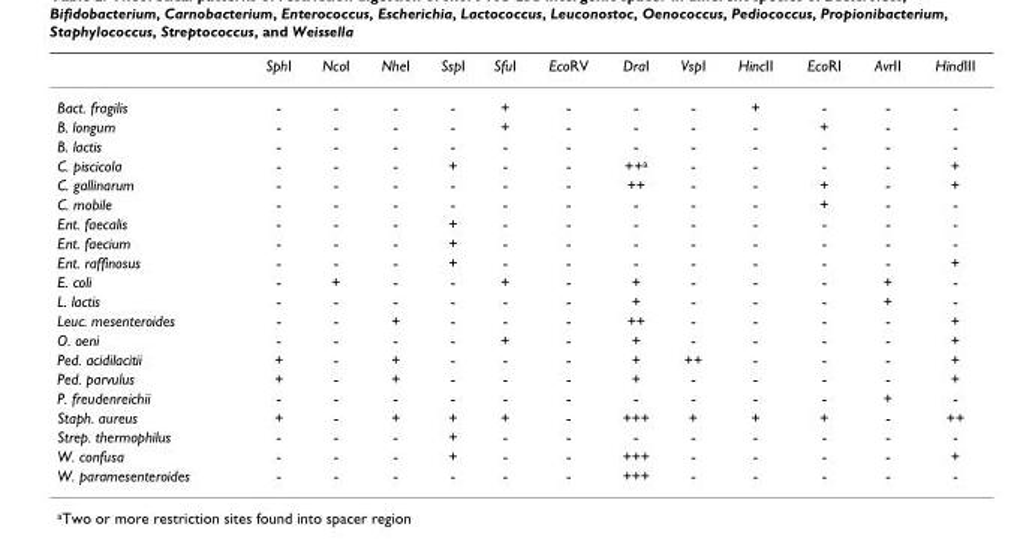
<table><thead><tr><td></td><td>SphI</td><td>NcoI</td><td>NheI</td><td>SspI</td><td>SfuI</td><td>EcoRV</td><td>DraI</td><td>VspI</td><td>HincII</td><td>EcoRI</td><td>AvrII</td><td>HindIII</td></tr></thead><tbody><tr><td>Bact. fragilis</td><td>-</td><td>-</td><td>-</td><td>-</td><td>+</td><td>-</td><td>-</td><td>-</td><td>+</td><td>-</td><td>-</td><td>-</td></tr><tr><td>B. longum</td><td>-</td><td>-</td><td>-</td><td>-</td><td>+</td><td>-</td><td>-</td><td>-</td><td>-</td><td>+</td><td>-</td><td>-</td></tr><tr><td>B. lactis</td><td>-</td><td>-</td><td>-</td><td>-</td><td>-</td><td>-</td><td>-</td><td>-</td><td>-</td><td>-</td><td>-</td><td>-</td></tr><tr><td>C. piscicola</td><td>-</td><td>-</td><td>-</td><td>+</td><td>-</td><td>-</td><td>++a</td><td>-</td><td>-</td><td>-</td><td>-</td><td>+</td></tr><tr><td>C. gallinarum</td><td>-</td><td>-</td><td>-</td><td>-</td><td>-</td><td>-</td><td>++</td><td>-</td><td>-</td><td>+</td><td>-</td><td>+</td></tr><tr><td>C. mobile</td><td>-</td><td>-</td><td>-</td><td>-</td><td>-</td><td>-</td><td>-</td><td>-</td><td>-</td><td>+</td><td>-</td><td>-</td></tr><tr><td>Ent. faecalis</td><td>-</td><td>-</td><td>-</td><td>+</td><td>-</td><td>-</td><td>-</td><td>-</td><td>-</td><td>-</td><td>-</td><td>-</td></tr><tr><td>Ent. faecium</td><td>-</td><td>-</td><td>-</td><td>+</td><td>-</td><td>-</td><td>-</td><td>-</td><td>-</td><td>-</td><td>-</td><td>-</td></tr><tr><td>Ent. raffinosus</td><td>-</td><td>-</td><td>-</td><td>+</td><td>-</td><td>-</td><td>-</td><td>-</td><td>-</td><td>-</td><td>-</td><td>+</td></tr><tr><td>E. coli</td><td>-</td><td>+</td><td>-</td><td>-</td><td>+</td><td>-</td><td>+</td><td>-</td><td>-</td><td>-</td><td>+</td><td>-</td></tr><tr><td>L. lactis</td><td>-</td><td>-</td><td>-</td><td>-</td><td>-</td><td>-</td><td>+</td><td>-</td><td>-</td><td>-</td><td>+</td><td>-</td></tr><tr><td>Leuc. mesenteroides</td><td>-</td><td>-</td><td>+</td><td>-</td><td>-</td><td>-</td><td>++</td><td>-</td><td>-</td><td>-</td><td>-</td><td>+</td></tr><tr><td>O. oeni</td><td>-</td><td>-</td><td>-</td><td>-</td><td>+</td><td>-</td><td>+</td><td>-</td><td>-</td><td>-</td><td>-</td><td>+</td></tr><tr><td>Ped. acidilacitii</td><td>+</td><td>-</td><td>+</td><td>-</td><td>-</td><td>-</td><td>+</td><td>++</td><td>-</td><td>-</td><td>-</td><td>+</td></tr><tr><td>Ped. parvulus</td><td>+</td><td>-</td><td>+</td><td>-</td><td>-</td><td>-</td><td>+</td><td>-</td><td>-</td><td>-</td><td>-</td><td>+</td></tr><tr><td>P. freudenreichii</td><td>-</td><td>-</td><td>-</td><td>-</td><td>-</td><td>-</td><td>-</td><td>-</td><td>-</td><td>-</td><td>+</td><td>-</td></tr><tr><td>Staph. aureus</td><td>+</td><td>-</td><td>+</td><td>+</td><td>+</td><td>-</td><td>+++</td><td>+</td><td>+</td><td>+</td><td>-</td><td>++</td></tr><tr><td>Strep. thermophilus</td><td>-</td><td>-</td><td>-</td><td>+</td><td>-</td><td>-</td><td>-</td><td>-</td><td>-</td><td>-</td><td>-</td><td>-</td></tr><tr><td>W. confusa</td><td>-</td><td>-</td><td>-</td><td>+</td><td>-</td><td>-</td><td>+++</td><td>-</td><td>-</td><td>-</td><td>-</td><td>+</td></tr><tr><td>W. paramesenteroides</td><td>-</td><td>-</td><td>-</td><td>-</td><td>-</td><td>-</td><td>+++</td><td>-</td><td>-</td><td>-</td><td>-</td><td>-</td></tr></tbody></table>